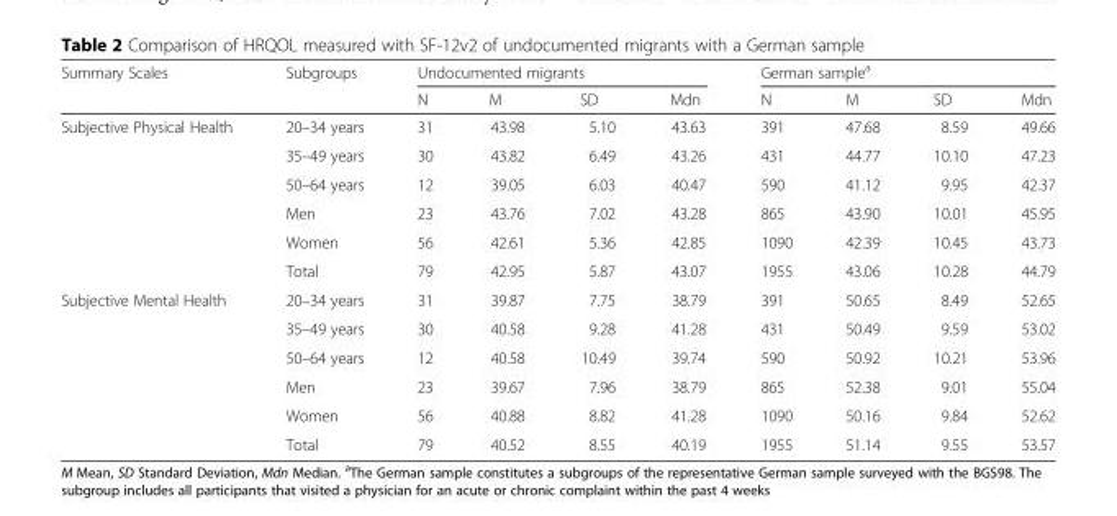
<table><thead><tr><td rowspan="2">Summary Scales</td><td rowspan="2">Subgroups</td><td colspan="4">Undocumented migrants</td><td colspan="4">German sample<sup>a</sup></td></tr><tr><td>N</td><td>M</td><td>SD</td><td>Mdn</td><td>N</td><td>M</td><td>SD</td><td>Mdn</td></tr></thead><tbody><tr><td rowspan="6">Subjective Physical Health</td><td>20–34 years</td><td>31</td><td>43.98</td><td>5.10</td><td>43.63</td><td>391</td><td>47.68</td><td>8.59</td><td>49.66</td></tr><tr><td>35–49 years</td><td>30</td><td>43.82</td><td>6.49</td><td>43.26</td><td>431</td><td>44.77</td><td>10.10</td><td>47.23</td></tr><tr><td>50–64 years</td><td>12</td><td>39.05</td><td>6.03</td><td>40.47</td><td>590</td><td>41.12</td><td>9.95</td><td>42.37</td></tr><tr><td>Men</td><td>23</td><td>43.76</td><td>7.02</td><td>43.28</td><td>865</td><td>43.90</td><td>10.01</td><td>45.95</td></tr><tr><td>Women</td><td>56</td><td>42.61</td><td>5.36</td><td>42.85</td><td>1090</td><td>42.39</td><td>10.45</td><td>43.73</td></tr><tr><td>Total</td><td>79</td><td>42.95</td><td>5.87</td><td>43.07</td><td>1955</td><td>43.06</td><td>10.28</td><td>44.79</td></tr><tr><td rowspan="6">Subjective Mental Health</td><td>20–34 years</td><td>31</td><td>39.87</td><td>7.75</td><td>38.79</td><td>391</td><td>50.65</td><td>8.49</td><td>52.65</td></tr><tr><td>35–49 years</td><td>30</td><td>40.58</td><td>9.28</td><td>41.28</td><td>431</td><td>50.49</td><td>9.59</td><td>53.02</td></tr><tr><td>50–64 years</td><td>12</td><td>40.58</td><td>10.49</td><td>39.74</td><td>590</td><td>50.92</td><td>10.21</td><td>53.96</td></tr><tr><td>Men</td><td>23</td><td>39.67</td><td>7.96</td><td>38.79</td><td>865</td><td>52.38</td><td>9.01</td><td>55.04</td></tr><tr><td>Women</td><td>56</td><td>40.88</td><td>8.82</td><td>41.28</td><td>1090</td><td>50.16</td><td>9.84</td><td>52.62</td></tr><tr><td>Total</td><td>79</td><td>40.52</td><td>8.55</td><td>40.19</td><td>1955</td><td>51.14</td><td>9.55</td><td>53.57</td></tr></tbody></table>